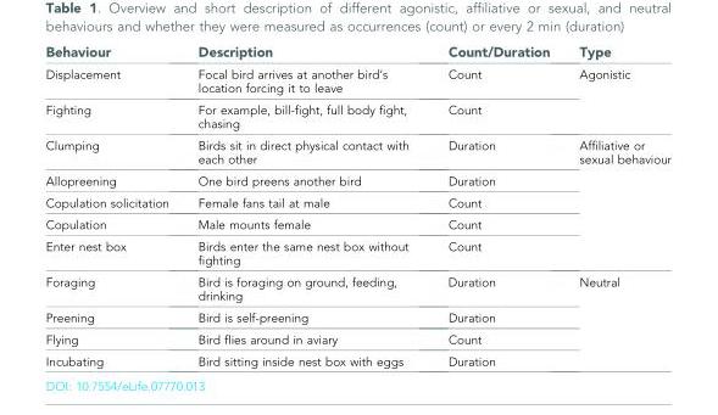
<table><thead><tr><td>Behaviour</td><td>Description</td><td>Count/Duration</td><td>Type</td></tr></thead><tbody><tr><td>Displacement</td><td>Focal bird arrives at another bird’s location forcing it to leave</td><td>Count</td><td rowspan="2">Agonistic</td></tr><tr><td>Fighting</td><td>For example, bill-fight, full body fight, chasing</td><td>Count</td></tr><tr><td>Clumping</td><td>Birds sit in direct physical contact with each other</td><td>Duration</td><td rowspan="5">Affiliative or sexual behaviour</td></tr><tr><td>Allopreening</td><td>One bird preens another bird</td><td>Duration</td></tr><tr><td>Copulation solicitation</td><td>Female fans tail at male</td><td>Count</td></tr><tr><td>Copulation</td><td>Male mounts female</td><td>Count</td></tr><tr><td>Enter nest box</td><td>Birds enter the same nest box without fighting</td><td>Count</td></tr><tr><td>Foraging</td><td>Bird is foraging on ground, feeding, drinking</td><td>Duration</td><td rowspan="4">Neutral</td></tr><tr><td>Preening</td><td>Bird is self-preening</td><td>Duration</td></tr><tr><td>Flying</td><td>Bird flies around in aviary</td><td>Count</td></tr><tr><td>Incubating</td><td>Bird sitting inside nest box with eggs</td><td>Duration</td></tr></tbody></table>